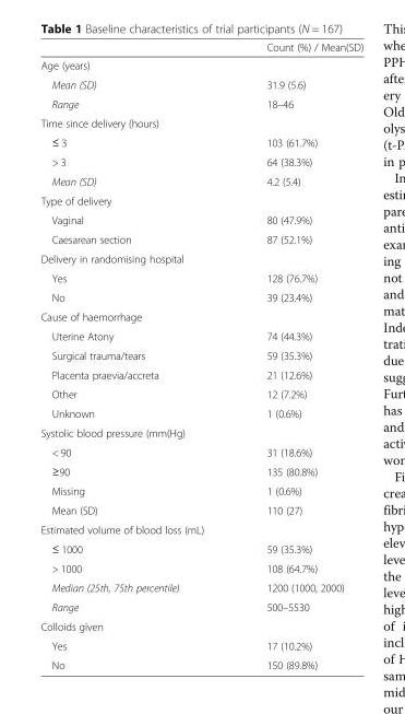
<table><thead><tr><td></td><td>Count (%) / Mean(SD)</td></tr></thead><tbody><tr><td colspan="2">Age (years)</td></tr><tr><td>Mean (SD)</td><td>31.9 (5.6)</td></tr><tr><td>Range</td><td>18–46</td></tr><tr><td colspan="2">Time since delivery (hours)</td></tr><tr><td>≤ 3</td><td>103 (61.7%)</td></tr><tr><td>&gt; 3</td><td>64 (38.3%)</td></tr><tr><td>Mean (SD)</td><td>4.2 (5.4)</td></tr><tr><td colspan="2">Type of delivery</td></tr><tr><td>Vaginal</td><td>80 (47.9%)</td></tr><tr><td>Caesarean section</td><td>87 (52.1%)</td></tr><tr><td colspan="2">Delivery in randomising hospital</td></tr><tr><td>Yes</td><td>128 (76.7%)</td></tr><tr><td>No</td><td>39 (23.4%)</td></tr><tr><td colspan="2">Cause of haemorrhage</td></tr><tr><td>Uterine Atony</td><td>74 (44.3%)</td></tr><tr><td>Surgical trauma/tears</td><td>59 (35.3%)</td></tr><tr><td>Placenta praevia/accreta</td><td>21 (12.6%)</td></tr><tr><td>Other</td><td>12 (7.2%)</td></tr><tr><td>Unknown</td><td>1 (0.6%)</td></tr><tr><td colspan="2">Systolic blood pressure (mm(Hg)</td></tr><tr><td>&lt; 90</td><td>31 (18.6%)</td></tr><tr><td>≥90</td><td>135 (80.8%)</td></tr><tr><td>Missing</td><td>1 (0.6%)</td></tr><tr><td>Mean (SD)</td><td>110 (27)</td></tr><tr><td colspan="2">Estimated volume of blood loss (mL)</td></tr><tr><td>≤ 1000</td><td>59 (35.3%)</td></tr><tr><td>&gt; 1000</td><td>108 (64.7%)</td></tr><tr><td>Median (25th, 75th percentile)</td><td>1200 (1000, 2000)</td></tr><tr><td>Range</td><td>500–5530</td></tr><tr><td colspan="2">Colloids given</td></tr><tr><td>Yes</td><td>17 (10.2%)</td></tr><tr><td>No</td><td>150 (89.8%)</td></tr></tbody></table>